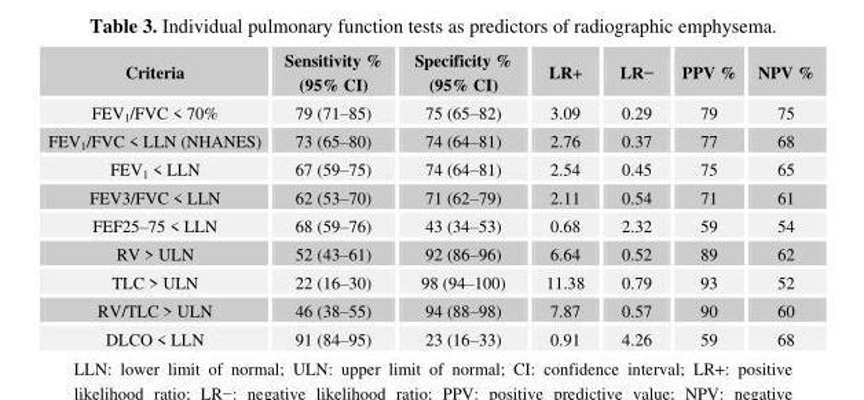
<table><thead><tr><td>Criteria</td><td>Sensitivity % (95% CI)</td><td>Specificity % (95% CI)</td><td>LR+</td><td>LR−</td><td>PPV %</td><td>NPV %</td></tr></thead><tbody><tr><td>FEV<sub>1</sub>/FVC &lt; 70%</td><td>79 (71–85)</td><td>75 (65–82)</td><td>3.09</td><td>0.29</td><td>79</td><td>75</td></tr><tr><td>FEV<sub>1</sub>/FVC &lt; LLN (NHANES)</td><td>73 (65–80)</td><td>74 (64–81)</td><td>2.76</td><td>0.37</td><td>77</td><td>68</td></tr><tr><td>FEV<sub>1</sub> &lt; LLN</td><td>67 (59–75)</td><td>74 (64–81)</td><td>2.54</td><td>0.45</td><td>75</td><td>65</td></tr><tr><td>FEV3/FVC &lt; LLN</td><td>62 (53–70)</td><td>71 (62–79)</td><td>2.11</td><td>0.54</td><td>71</td><td>61</td></tr><tr><td>FEF25–75 &lt; LLN</td><td>68 (59–76)</td><td>43 (34–53)</td><td>0.68</td><td>2.32</td><td>59</td><td>54</td></tr><tr><td>RV &gt; ULN</td><td>52 (43–61)</td><td>92 (86–96)</td><td>6.64</td><td>0.52</td><td>89</td><td>62</td></tr><tr><td>TLC &gt; ULN</td><td>22 (16–30)</td><td>98 (94–100)</td><td>11.38</td><td>0.79</td><td>93</td><td>52</td></tr><tr><td>RV/TLC &gt; ULN</td><td>46 (38–55)</td><td>94 (88–98)</td><td>7.87</td><td>0.57</td><td>90</td><td>60</td></tr><tr><td>DLCO &lt; LLN</td><td>91 (84–95)</td><td>23 (16–33)</td><td>0.91</td><td>4.26</td><td>59</td><td>68</td></tr></tbody></table>